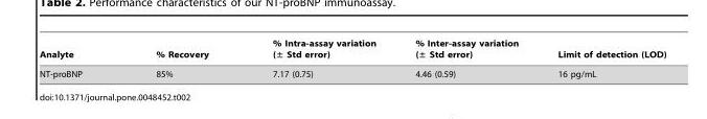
<table><thead><tr><td>Analyte</td><td>% Recovery</td><td>% Intra-assay variation (± Std error)</td><td>% Inter-assay variation (± Std error)</td><td>Limit of detection (LOD)</td></tr></thead><tbody><tr><td>NT-proBNP</td><td>85%</td><td>7.17 (0.75)</td><td>4.46 (0.59)</td><td>16 pg/mL</td></tr></tbody></table>